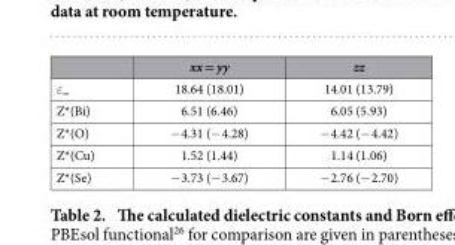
<table><thead><tr><td></td><td>xx = yy</td><td>zz</td></tr></thead><tbody><tr><td>ε<sub>∞</sub></td><td>18.64 (18.01)</td><td>14.01 (13.79)</td></tr><tr><td>Z*(Bi)</td><td>6.51 (6.46)</td><td>6.05 (5.93)</td></tr><tr><td>Z*(O)</td><td>− 4.31 (− 4.28)</td><td>− 4.42 (− 4.42)</td></tr><tr><td>Z*(Cu)</td><td>1.52 (1.44)</td><td>1.14 (1.06)</td></tr><tr><td>Z*(Se)</td><td>− 3.73 (− 3.67)</td><td>− 2.76 (− 2.70)</td></tr></tbody></table>